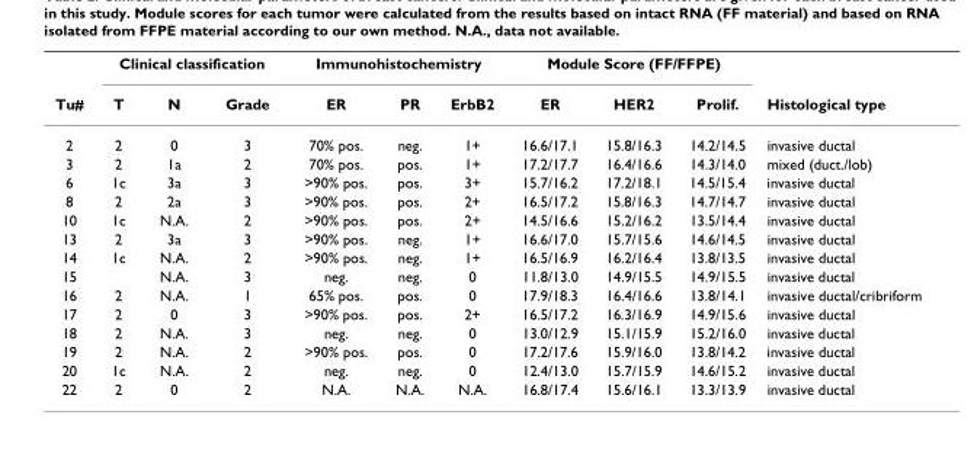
<table><thead><tr><td rowspan="2">Tu#</td><td colspan="3">Clinical classification</td><td colspan="3">Immunohistochemistry</td><td colspan="3">Module Score (FF/FFPE)</td><td rowspan="2">Histological type</td></tr><tr><td>T</td><td>N</td><td>Grade</td><td>ER</td><td>PR</td><td>ErbB2</td><td>ER</td><td>HER2</td><td>Prolif.</td></tr></thead><tbody><tr><td>2</td><td>2</td><td>0</td><td>3</td><td>70% pos.</td><td>neg.</td><td>1+</td><td>16.6/17.1</td><td>15.8/16.3</td><td>14.2/14.5</td><td>invasive ductal</td></tr><tr><td>3</td><td>2</td><td>1a</td><td>2</td><td>70% pos.</td><td>pos.</td><td>1+</td><td>17.2/17.7</td><td>16.4/16.6</td><td>14.3/14.0</td><td>mixed (duct./lob)</td></tr><tr><td>6</td><td>1c</td><td>3a</td><td>3</td><td>&gt;90% pos.</td><td>pos.</td><td>3+</td><td>15.7/16.2</td><td>17.2/18.1</td><td>14.5/15.4</td><td>invasive ductal</td></tr><tr><td>8</td><td>2</td><td>2a</td><td>3</td><td>&gt;90% pos.</td><td>pos.</td><td>2+</td><td>16.5/17.2</td><td>15.8/16.3</td><td>14.7/14.7</td><td>invasive ductal</td></tr><tr><td>10</td><td>1c</td><td>N.A.</td><td>2</td><td>&gt;90% pos.</td><td>pos.</td><td>2+</td><td>14.5/16.6</td><td>15.2/16.2</td><td>13.5/14.4</td><td>invasive ductal</td></tr><tr><td>13</td><td>2</td><td>3a</td><td>3</td><td>&gt;90% pos.</td><td>neg.</td><td>1+</td><td>16.6/17.0</td><td>15.7/15.6</td><td>14.6/14.5</td><td>invasive ductal</td></tr><tr><td>14</td><td>1c</td><td>N.A.</td><td>2</td><td>&gt;90% pos.</td><td>neg.</td><td>1+</td><td>16.5/16.9</td><td>16.2/16.4</td><td>13.8/13.5</td><td>invasive ductal</td></tr><tr><td>15</td><td></td><td>N.A.</td><td>3</td><td>neg.</td><td>neg.</td><td>0</td><td>11.8/13.0</td><td>14.9/15.5</td><td>14.9/15.5</td><td>invasive ductal</td></tr><tr><td>16</td><td>2</td><td>N.A.</td><td>1</td><td>65% pos.</td><td>pos.</td><td>0</td><td>17.9/18.3</td><td>16.4/16.6</td><td>13.8/14.1</td><td>invasive ductal/cribriform</td></tr><tr><td>17</td><td>2</td><td>0</td><td>3</td><td>&gt;90% pos.</td><td>pos.</td><td>2+</td><td>16.5/17.2</td><td>16.3/16.9</td><td>14.9/15.6</td><td>invasive ductal</td></tr><tr><td>18</td><td>2</td><td>N.A.</td><td>3</td><td>neg.</td><td>neg.</td><td>0</td><td>13.0/12.9</td><td>15.1/15.9</td><td>15.2/16.0</td><td>invasive ductal</td></tr><tr><td>19</td><td>2</td><td>N.A.</td><td>2</td><td>&gt;90% pos.</td><td>pos.</td><td>0</td><td>17.2/17.6</td><td>15.9/16.0</td><td>13.8/14.2</td><td>invasive ductal</td></tr><tr><td>20</td><td>1c</td><td>N.A.</td><td>2</td><td>neg.</td><td>neg.</td><td>0</td><td>12.4/13.0</td><td>15.7/15.9</td><td>14.6/15.2</td><td>invasive ductal</td></tr><tr><td>22</td><td>2</td><td>0</td><td>2</td><td>N.A.</td><td>N.A.</td><td>N.A.</td><td>16.8/17.4</td><td>15.6/16.1</td><td>13.3/13.9</td><td>invasive ductal</td></tr></tbody></table>